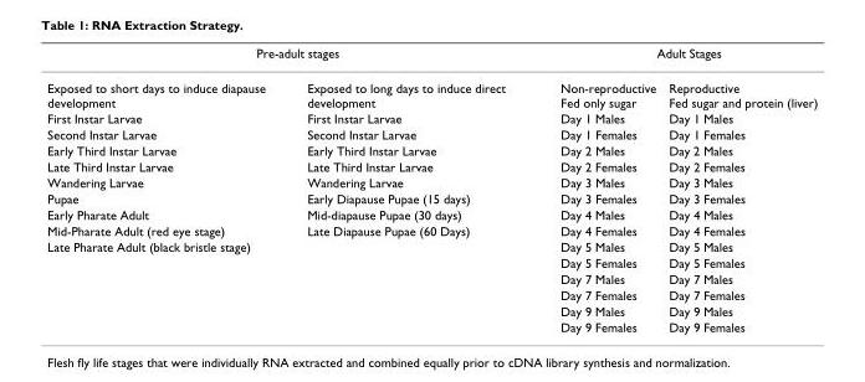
<table><thead><tr><td colspan="2">Pre-adult stages</td><td colspan="2">Adult Stages</td></tr><tr><td>Exposed to short days to induce diapause development</td><td>Exposed to long days to induce direct development</td><td>Non-reproductive Fed only sugar</td><td>Reproductive Fed sugar and protein (liver)</td></tr></thead><tbody><tr><td>First Instar Larvae</td><td>First Instar Larvae</td><td>Day 1 Males</td><td>Day 1 Males</td></tr><tr><td>Second Instar Larvae</td><td>Second Instar Larvae</td><td>Day 1 Females</td><td>Day 1 Females</td></tr><tr><td>Early Third Instar Larvae</td><td>Early Third Instar Larvae</td><td>Day 2 Males</td><td>Day 2 Males</td></tr><tr><td>Late Third Instar Larvae</td><td>Late Third Instar Larvae</td><td>Day 2 Females</td><td>Day 2 Females</td></tr><tr><td>Wandering Larvae</td><td>Wandering Larvae</td><td>Day 3 Males</td><td>Day 3 Males</td></tr><tr><td>Pupae</td><td>Early Diapause Pupae (15 days)</td><td>Day 3 Females</td><td>Day 3 Females</td></tr><tr><td>Early Pharate Adult</td><td>Mid-diapause Pupae (30 days)</td><td>Day 4 Males</td><td>Day 4 Males</td></tr><tr><td>Mid-Pharate Adult (red eye stage)</td><td>Late Diapause Pupae (60 Days)</td><td>Day 4 Females</td><td>Day 4 Females</td></tr><tr><td rowspan="6">Late Pharate Adult (black bristle stage)</td><td></td><td>Day 5 Males</td><td>Day 5 Males</td></tr><tr><td></td><td>Day 5 Females</td><td>Day 5 Females</td></tr><tr><td></td><td>Day 7 Males</td><td>Day 7 Males</td></tr><tr><td></td><td>Day 7 Females</td><td>Day 7 Females</td></tr><tr><td></td><td>Day 9 Males</td><td>Day 9 Males</td></tr><tr><td></td><td>Day 9 Females</td><td>Day 9 Females</td></tr></tbody></table>